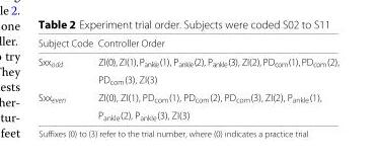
<table><thead><tr><td>Subject Code</td><td>Controller Order</td></tr></thead><tbody><tr><td rowspan="2">Sxx<sub>odd</sub></td><td>ZI(0),ZI(1),P<sub>ankle</sub>(1), P<sub>ankle</sub>(2), P<sub>ankle</sub>(3), ZI(2),PD<sub>com</sub>(1),PD<sub>com</sub>(2),</td></tr><tr><td>PD<sub>com</sub>(3), ZI(3)</td></tr><tr><td rowspan="2">Sxx<sub>even</sub></td><td>ZI(0), ZI(1), PD<sub>com</sub>(1), PD<sub>com</sub>(2), PD<sub>com</sub>(3), ZI(2), P<sub>ankle</sub>(1),</td></tr><tr><td>P<sub>ankle</sub>(2), P<sub>ankle</sub>(3), ZI(3)</td></tr></tbody></table>